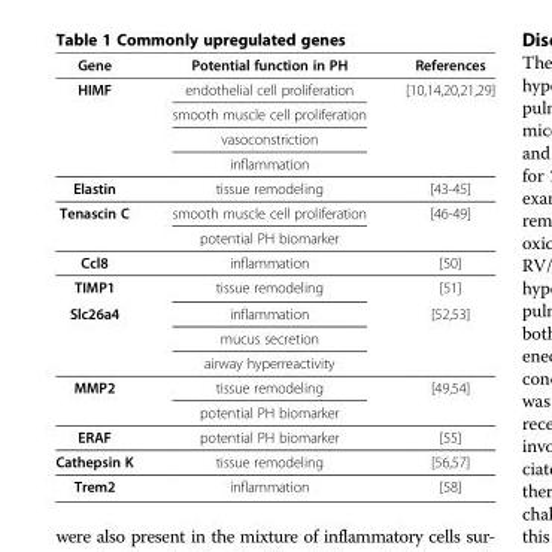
<table><thead><tr><td>Gene</td><td>Potential function in PH</td><td>References</td></tr></thead><tbody><tr><td rowspan="4">HIMF</td><td>endothelial cell proliferation</td><td>[10,14,20,21,29]</td></tr><tr><td>smooth muscle cell proliferation</td><td></td></tr><tr><td>vasoconstriction</td><td></td></tr><tr><td>inflammation</td><td></td></tr><tr><td>Elastin</td><td>tissue remodeling</td><td>[43-45]</td></tr><tr><td rowspan="2">Tenascin C</td><td>smooth muscle cell proliferation</td><td>[46-49]</td></tr><tr><td>potential PH biomarker</td><td></td></tr><tr><td>Ccl8</td><td>inflammation</td><td>[50]</td></tr><tr><td>TIMP1</td><td>tissue remodeling</td><td>[51]</td></tr><tr><td rowspan="3">Slc26a4</td><td>inflammation</td><td>[52,53]</td></tr><tr><td>mucus secretion</td><td></td></tr><tr><td>airway hyperreactivity</td><td></td></tr><tr><td rowspan="2">MMP2</td><td>tissue remodeling</td><td>[49,54]</td></tr><tr><td>potential PH biomarker</td><td></td></tr><tr><td>ERAF</td><td>potential PH biomarker</td><td>[55]</td></tr><tr><td>Cathepsin K</td><td>tissue remodeling</td><td>[56,57]</td></tr><tr><td>Trem2</td><td>inflammation</td><td>[58]</td></tr></tbody></table>